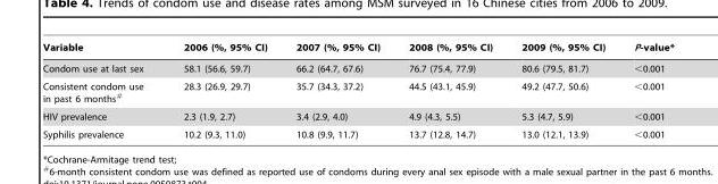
<table><thead><tr><td>Variable</td><td>2006 (%, 95% CI)</td><td>2007 (%, 95% CI)</td><td>2008 (%, 95% CI)</td><td>2009 (%, 95% CI)</td><td>P-value*</td></tr></thead><tbody><tr><td>Condom use at last sex</td><td>58.1 (56.6, 59.7)</td><td>66.2 (64.7, 67.6)</td><td>76.7 (75.4, 77.9)</td><td>80.6 (79.5, 81.7)</td><td>&lt;0.001</td></tr><tr><td>Consistent condom use in past 6 months#</td><td>28.3 (26.9, 29.7)</td><td>35.7 (34.3, 37.2)</td><td>44.5 (43.1, 45.9)</td><td>49.2 (47.7, 50.6)</td><td>&lt;0.001</td></tr><tr><td>HIV prevalence</td><td>2.3 (1.9, 2.7)</td><td>3.4 (2.9, 4.0)</td><td>4.9 (4.3, 5.5)</td><td>5.3 (4.7, 5.9)</td><td>&lt;0.001</td></tr><tr><td>Syphilis prevalence</td><td>10.2 (9.3, 11.0)</td><td>10.8 (9.9, 11.7)</td><td>13.7 (12.8, 14.7)</td><td>13.0 (12.1, 13.9)</td><td>&lt;0.001</td></tr></tbody></table>